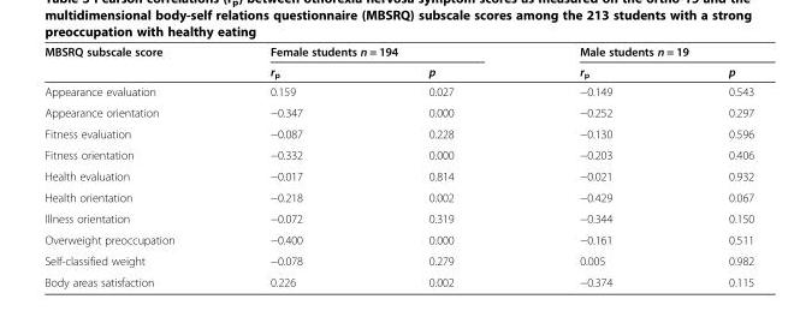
<table><thead><tr><td rowspan="2">MBSRQ subscale score</td><td colspan="2">Female students n = 194</td><td colspan="2">Male students n = 19</td></tr><tr><td>r<sub>p</sub></td><td>p</td><td>r<sub>p</sub></td><td>p</td></tr></thead><tbody><tr><td>Appearance evaluation</td><td>0.159</td><td>0.027</td><td>−0.149</td><td>0.543</td></tr><tr><td>Appearance orientation</td><td>−0.347</td><td>0.000</td><td>−0.252</td><td>0.297</td></tr><tr><td>Fitness evaluation</td><td>−0.087</td><td>0.228</td><td>−0.130</td><td>0.596</td></tr><tr><td>Fitness orientation</td><td>−0.332</td><td>0.000</td><td>−0.203</td><td>0.406</td></tr><tr><td>Health evaluation</td><td>−0.017</td><td>0.814</td><td>−0.021</td><td>0.932</td></tr><tr><td>Health orientation</td><td>−0.218</td><td>0.002</td><td>−0.429</td><td>0.067</td></tr><tr><td>Illness orientation</td><td>−0.072</td><td>0.319</td><td>−0.344</td><td>0.150</td></tr><tr><td>Overweight preoccupation</td><td>−0.400</td><td>0.000</td><td>−0.161</td><td>0.511</td></tr><tr><td>Self-classified weight</td><td>−0.078</td><td>0.279</td><td>0.005</td><td>0.982</td></tr><tr><td>Body areas satisfaction</td><td>0.226</td><td>0.002</td><td>−0.374</td><td>0.115</td></tr></tbody></table>